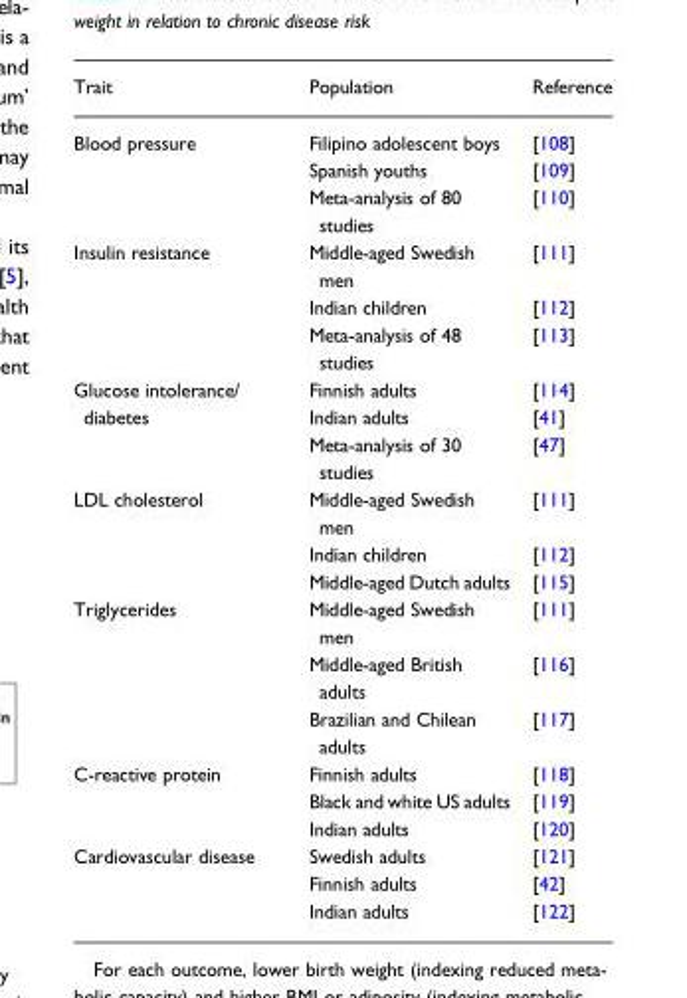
<table><thead><tr><td>Trait</td><td>Population</td><td>Reference</td></tr></thead><tbody><tr><td rowspan="3">Blood pressure</td><td>Filipino adolescent boys</td><td>[108]</td></tr><tr><td>Spanish youths</td><td>[109]</td></tr><tr><td>Meta-analysis of 80 studies</td><td>[110]</td></tr><tr><td rowspan="3">Insulin resistance</td><td>Middle-aged Swedish men</td><td>[111]</td></tr><tr><td>Indian children</td><td>[112]</td></tr><tr><td>Meta-analysis of 48 studies</td><td>[113]</td></tr><tr><td rowspan="3">Glucose intolerance/ diabetes</td><td>Finnish adults</td><td>[114]</td></tr><tr><td>Indian adults</td><td>[41]</td></tr><tr><td>Meta-analysis of 30 studies</td><td>[47]</td></tr><tr><td rowspan="3">LDL cholesterol</td><td>Middle-aged Swedish men</td><td>[111]</td></tr><tr><td>Indian children</td><td>[112]</td></tr><tr><td>Middle-aged Dutch adults</td><td>[115]</td></tr><tr><td rowspan="3">Triglycerides</td><td>Middle-aged Swedish men</td><td>[111]</td></tr><tr><td>Middle-aged British adults</td><td>[116]</td></tr><tr><td>Brazilian and Chilean adults</td><td>[117]</td></tr><tr><td rowspan="3">C-reactive protein</td><td>Finnish adults</td><td>[118]</td></tr><tr><td>Black and white US adults</td><td>[119]</td></tr><tr><td>Indian adults</td><td>[120]</td></tr><tr><td rowspan="3">Cardiovascular disease</td><td>Swedish adults</td><td>[121]</td></tr><tr><td>Finnish adults</td><td>[42]</td></tr><tr><td>Indian adults</td><td>[122]</td></tr></tbody></table>